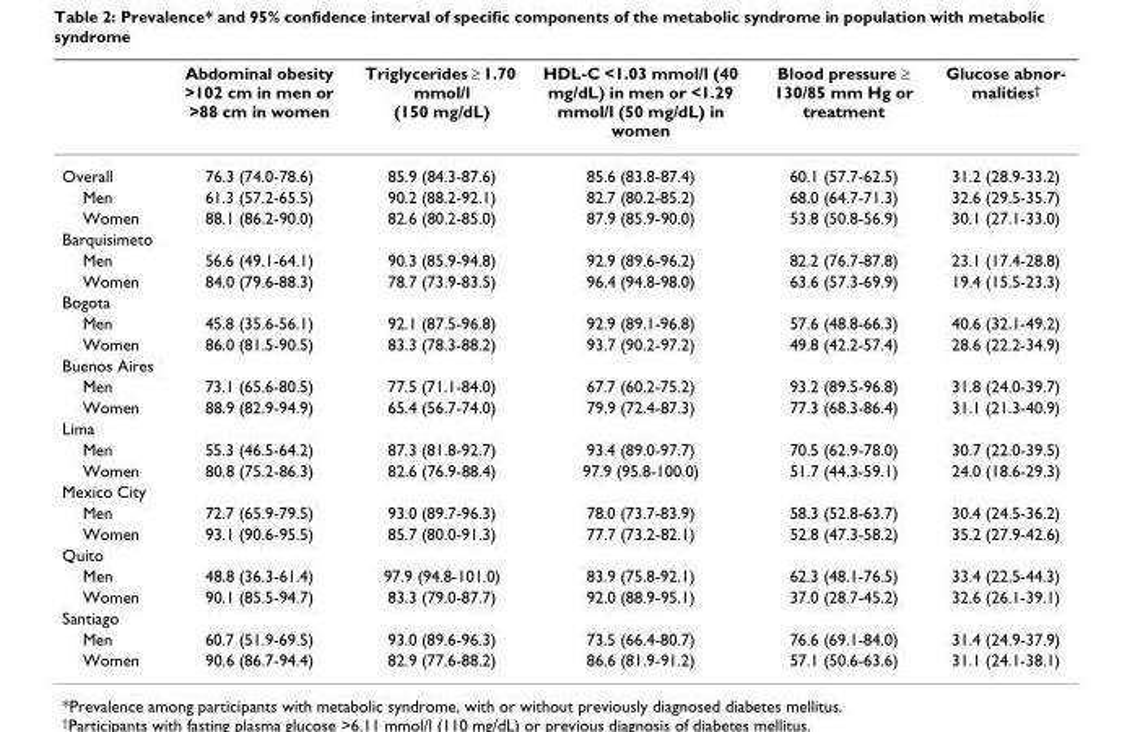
<table><thead><tr><td></td><td>Abdominal obesity &gt;102 cm in men or &gt;88 cm in women</td><td>Triglycerides ≥ 1.70 mmol/l (150 mg/dL)</td><td>HDL-C &lt;1.03 mmol/l (40 mg/dL) in men or &lt;1.29 mmol/l (50 mg/dL) in women</td><td>Blood pressure ≥ 130/85 mm Hg or treatment</td><td>Glucose abnor- malities†</td></tr></thead><tbody><tr><td>Overall</td><td>76.3 (74.0-78.6)</td><td>85.9 (84.3-87.6)</td><td>85.6 (83.8-87.4)</td><td>60.1 (57.7-62.5)</td><td>31.2 (28.9-33.2)</td></tr><tr><td>Men</td><td>61.3 (57.2-65.5)</td><td>90.2 (88.2-92.1)</td><td>82.7 (80.2-85.2)</td><td>68.0 (64.7-71.3)</td><td>32.6 (29.5-35.7)</td></tr><tr><td>Women</td><td>88.1 (86.2-90.0)</td><td>82.6 (80.2-85.0)</td><td>87.9 (85.9-90.0)</td><td>53.8 (50.8-56.9)</td><td>30.1 (27.1-33.0)</td></tr><tr><td colspan="6">Barquisimeto</td></tr><tr><td>Men</td><td>56.6 (49.1-64.1)</td><td>90.3 (85.9-94.8)</td><td>92.9 (89.6-96.2)</td><td>82.2 (76.7-87.8)</td><td>23.1 (17.4-28.8)</td></tr><tr><td>Women</td><td>84.0 (79.6-88.3)</td><td>78.7 (73.9-83.5)</td><td>96.4 (94.8-98.0)</td><td>63.6 (57.3-69.9)</td><td>19.4 (15.5-23.3)</td></tr><tr><td colspan="6">Bogota</td></tr><tr><td>Men</td><td>45.8 (35.6-56.1)</td><td>92.1 (87.5-96.8)</td><td>92.9 (89.1-96.8)</td><td>57.6 (48.8-66.3)</td><td>40.6 (32.1-49.2)</td></tr><tr><td>Women</td><td>86.0 (81.5-90.5)</td><td>83.3 (78.3-88.2)</td><td>93.7 (90.2-97.2)</td><td>49.8 (42.2-57.4)</td><td>28.6 (22.2-34.9)</td></tr><tr><td colspan="6">Buenos Aires</td></tr><tr><td>Men</td><td>73.1 (65.6-80.5)</td><td>77.5 (71.1-84.0)</td><td>67.7 (60.2-75.2)</td><td>93.2 (89.5-96.8)</td><td>31.8 (24.0-39.7)</td></tr><tr><td>Women</td><td>88.9 (82.9-94.9)</td><td>65.4 (56.7-74.0)</td><td>79.9 (72.4-87.3)</td><td>77.3 (68.3-86.4)</td><td>31.1 (21.3-40.9)</td></tr><tr><td colspan="6">Lima</td></tr><tr><td>Men</td><td>55.3 (46.5-64.2)</td><td>87.3 (81.8-92.7)</td><td>93.4 (89.0-97.7)</td><td>70.5 (62.9-78.0)</td><td>30.7 (22.0-39.5)</td></tr><tr><td>Women</td><td>80.8 (75.2-86.3)</td><td>82.6 (76.9-88.4)</td><td>97.9 (95.8-100.0)</td><td>51.7 (44.3-59.1)</td><td>24.0 (18.6-29.3)</td></tr><tr><td colspan="6">Mexico City</td></tr><tr><td>Men</td><td>72.7 (65.9-79.5)</td><td>93.0 (89.7-96.3)</td><td>78.0 (73.7-83.9)</td><td>58.3 (52.8-63.7)</td><td>30.4 (24.5-36.2)</td></tr><tr><td>Women</td><td>93.1 (90.6-95.5)</td><td>85.7 (80.0-91.3)</td><td>77.7 (73.2-82.1)</td><td>52.8 (47.3-58.2)</td><td>35.2 (27.9-42.6)</td></tr><tr><td colspan="6">Quito</td></tr><tr><td>Men</td><td>48.8 (36.3-61.4)</td><td>97.9 (94.8-101.0)</td><td>83.9 (75.8-92.1)</td><td>62.3 (48.1-76.5)</td><td>33.4 (22.5-44.3)</td></tr><tr><td>Women</td><td>90.1 (85.5-94.7)</td><td>83.3 (79.0-87.7)</td><td>92.0 (88.9-95.1)</td><td>37.0 (28.7-45.2)</td><td>32.6 (26.1-39.1)</td></tr><tr><td colspan="6">Santiago</td></tr><tr><td>Men</td><td>60.7 (51.9-69.5)</td><td>93.0 (89.6-96.3)</td><td>73.5 (66.4-80.7)</td><td>76.6 (69.1-84.0)</td><td>31.4 (24.9-37.9)</td></tr><tr><td>Women</td><td>90.6 (86.7-94.4)</td><td>82.9 (77.6-88.2)</td><td>86.6 (81.9-91.2)</td><td>57.1 (50.6-63.6)</td><td>31.1 (24.1-38.1)</td></tr></tbody></table>